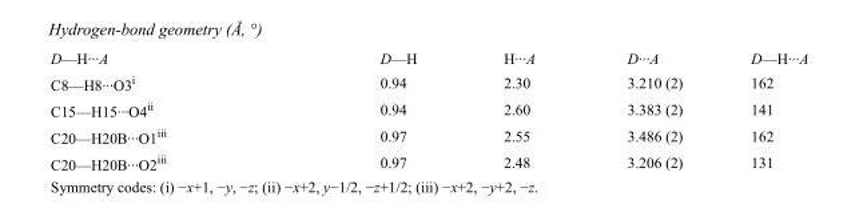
<table><tbody><tr><td>D—H···A</td><td>D—H</td><td>H···A</td><td>D···A</td><td>D—H···A</td></tr><tr><td>C8—H8···O3<sup>i</sup></td><td>0.94</td><td>2.30</td><td>3.210 (2)</td><td>162</td></tr><tr><td>C15—H15···O4<sup>ii</sup></td><td>0.94</td><td>2.60</td><td>3.383 (2)</td><td>141</td></tr><tr><td>C20—H20B···O1<sup>iii</sup></td><td>0.97</td><td>2.55</td><td>3.486 (2)</td><td>162</td></tr><tr><td>C20—H20B···O2<sup>iii</sup></td><td>0.97</td><td>2.48</td><td>3.206 (2)</td><td>131</td></tr></tbody></table>